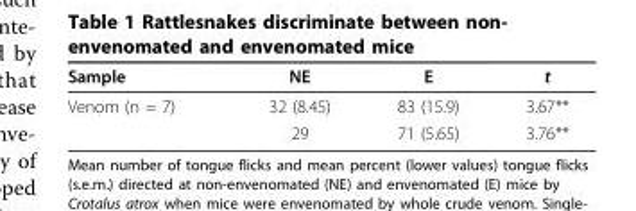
<table><thead><tr><td>Sample</td><td>NE</td><td>E</td><td>t</td></tr></thead><tbody><tr><td rowspan="2">Venom (n = 7)</td><td>32 (8.45)</td><td>83 (15.9)</td><td>3.67**</td></tr><tr><td>29</td><td>71 (5.65)</td><td>3.76**</td></tr></tbody></table>